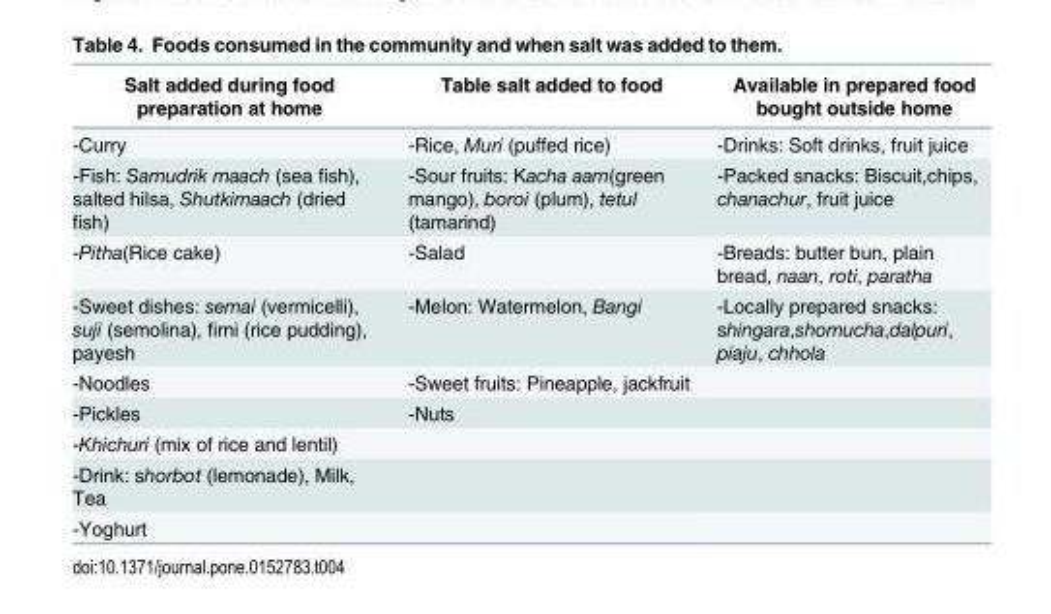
<table><thead><tr><td>Salt added during food preparation at home</td><td>Table salt added to food</td><td>Available in prepared food bought outside home</td></tr></thead><tbody><tr><td>-Curry</td><td>-Rice, Muri (puffed rice)</td><td>-Drinks: Soft drinks, fruit juice</td></tr><tr><td>-Fish: Samudrik maach (sea fish), salted hilsa, Shutkimaach (dried fish)</td><td>-Sour fruits: Kacha aam(green mango), boroi (plum), tetul (tamarind)</td><td>-Packed snacks: Biscuit,chips, chanachur, fruit juice</td></tr><tr><td>-Pitha(Rice cake)</td><td>-Salad</td><td>-Breads: butter bun, plain bread, naan, roti, paratha</td></tr><tr><td>-Sweet dishes: semai (vermicelli), suji (semolina), firni (rice pudding), payesh</td><td>-Melon: Watermelon, Bangi</td><td>-Locally prepared snacks: shingara,shomucha,dalpuri, piaju, chhola</td></tr><tr><td>-Noodles</td><td>-Sweet fruits: Pineapple, jackfruit</td><td></td></tr><tr><td>-Pickles</td><td>-Nuts</td><td></td></tr><tr><td colspan="3">-Khichuri (mix of rice and lentil)</td></tr><tr><td colspan="3">-Drink: shorbot (lemonade), Milk, Tea</td></tr><tr><td>-Yoghurt</td><td></td><td></td></tr></tbody></table>